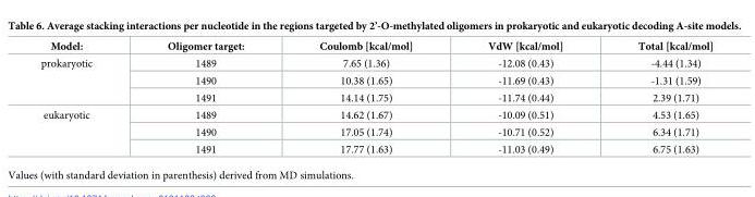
<table><thead><tr><td>Model:</td><td>Oligomer target:</td><td>Coulomb [kcal/mol]</td><td>VdW [kcal/mol]</td><td>Total [kcal/mol]</td></tr></thead><tbody><tr><td rowspan="3">prokaryotic</td><td>1489</td><td>7.65 (1.36)</td><td>-12.08 (0.43)</td><td>-4.44 (1.34)</td></tr><tr><td>1490</td><td>10.38 (1.65)</td><td>-11.69 (0.43)</td><td>-1.31 (1.59)</td></tr><tr><td>1491</td><td>14.14 (1.75)</td><td>-11.74 (0.44)</td><td>2.39 (1.71)</td></tr><tr><td rowspan="3">eukaryotic</td><td>1489</td><td>14.62 (1.67)</td><td>-10.09 (0.51)</td><td>4.53 (1.65)</td></tr><tr><td>1490</td><td>17.05 (1.74)</td><td>-10.71 (0.52)</td><td>6.34 (1.71)</td></tr><tr><td>1491</td><td>17.77 (1.63)</td><td>-11.03 (0.49)</td><td>6.75 (1.63)</td></tr></tbody></table>